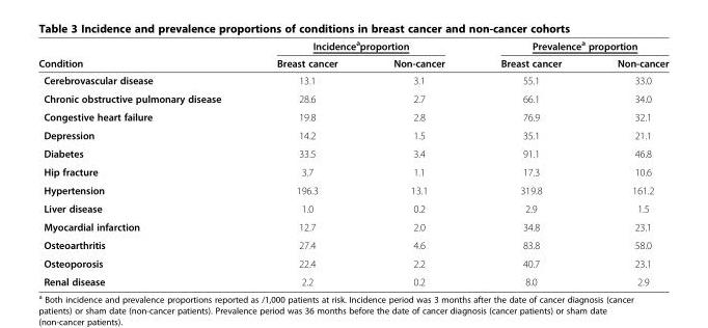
<table><thead><tr><td rowspan="2">Condition</td><td colspan="2">Incidence<sup>a</sup>proportion</td><td colspan="2">Prevalence<sup>a</sup> proportion</td></tr><tr><td>Breast cancer</td><td>Non-cancer</td><td>Breast cancer</td><td>Non-cancer</td></tr></thead><tbody><tr><td>Cerebrovascular disease</td><td>13.1</td><td>3.1</td><td>55.1</td><td>33.0</td></tr><tr><td>Chronic obstructive pulmonary disease</td><td>28.6</td><td>2.7</td><td>66.1</td><td>34.0</td></tr><tr><td>Congestive heart failure</td><td>19.8</td><td>2.8</td><td>76.9</td><td>32.1</td></tr><tr><td>Depression</td><td>14.2</td><td>1.5</td><td>35.1</td><td>21.1</td></tr><tr><td>Diabetes</td><td>33.5</td><td>3.4</td><td>91.1</td><td>46.8</td></tr><tr><td>Hip fracture</td><td>3.7</td><td>1.1</td><td>17.3</td><td>10.6</td></tr><tr><td>Hypertension</td><td>196.3</td><td>13.1</td><td>319.8</td><td>161.2</td></tr><tr><td>Liver disease</td><td>1.0</td><td>0.2</td><td>2.9</td><td>1.5</td></tr><tr><td>Myocardial infarction</td><td>12.7</td><td>2.0</td><td>34.8</td><td>23.1</td></tr><tr><td>Osteoarthritis</td><td>27.4</td><td>4.6</td><td>83.8</td><td>58.0</td></tr><tr><td>Osteoporosis</td><td>22.4</td><td>2.2</td><td>40.7</td><td>23.1</td></tr><tr><td>Renal disease</td><td>2.2</td><td>0.2</td><td>8.0</td><td>2.9</td></tr></tbody></table>